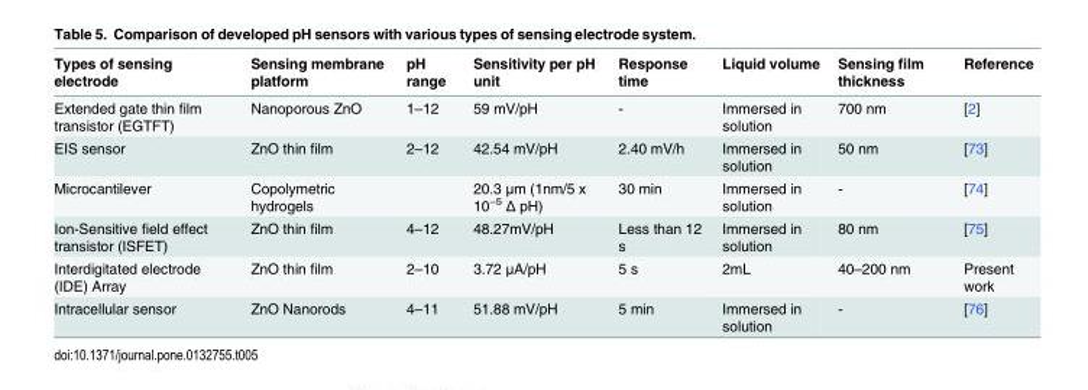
<table><thead><tr><td>Types of sensing electrode</td><td>Sensing membrane platform</td><td>pH range</td><td>Sensitivity per pH unit</td><td>Response time</td><td>Liquid volume</td><td>Sensing film thickness</td><td>Reference</td></tr></thead><tbody><tr><td>Extended gate thin film transistor (EGTFT)</td><td>Nanoporous ZnO</td><td>1–12</td><td>59 mV/pH</td><td>-</td><td>Immersed in solution</td><td>700 nm</td><td>[2]</td></tr><tr><td>EIS sensor</td><td>ZnO thin film</td><td>2–12</td><td>42.54 mV/pH</td><td>2.40 mV/h</td><td>Immersed in solution</td><td>50 nm</td><td>[73]</td></tr><tr><td>Microcantilever</td><td>Copolymetric hydrogels</td><td></td><td>20.3 μm (1nm/5 x 10<sup>−5</sup> Δ pH)</td><td>30 min</td><td>Immersed in solution</td><td>-</td><td>[74]</td></tr><tr><td>Ion-Sensitive field effect transistor (ISFET)</td><td>ZnO thin film</td><td>4–12</td><td>48.27mV/pH</td><td>Less than 12 s</td><td>Immersed in solution</td><td>80 nm</td><td>[75]</td></tr><tr><td>Interdigitated electrode (IDE) Array</td><td>ZnO thin film</td><td>2–10</td><td>3.72 μA/pH</td><td>5 s</td><td>2mL</td><td>40–200 nm</td><td>Present work</td></tr><tr><td>Intracellular sensor</td><td>ZnO Nanorods</td><td>4–11</td><td>51.88 mV/pH</td><td>5 min</td><td>Immersed in solution</td><td>-</td><td>[76]</td></tr></tbody></table>